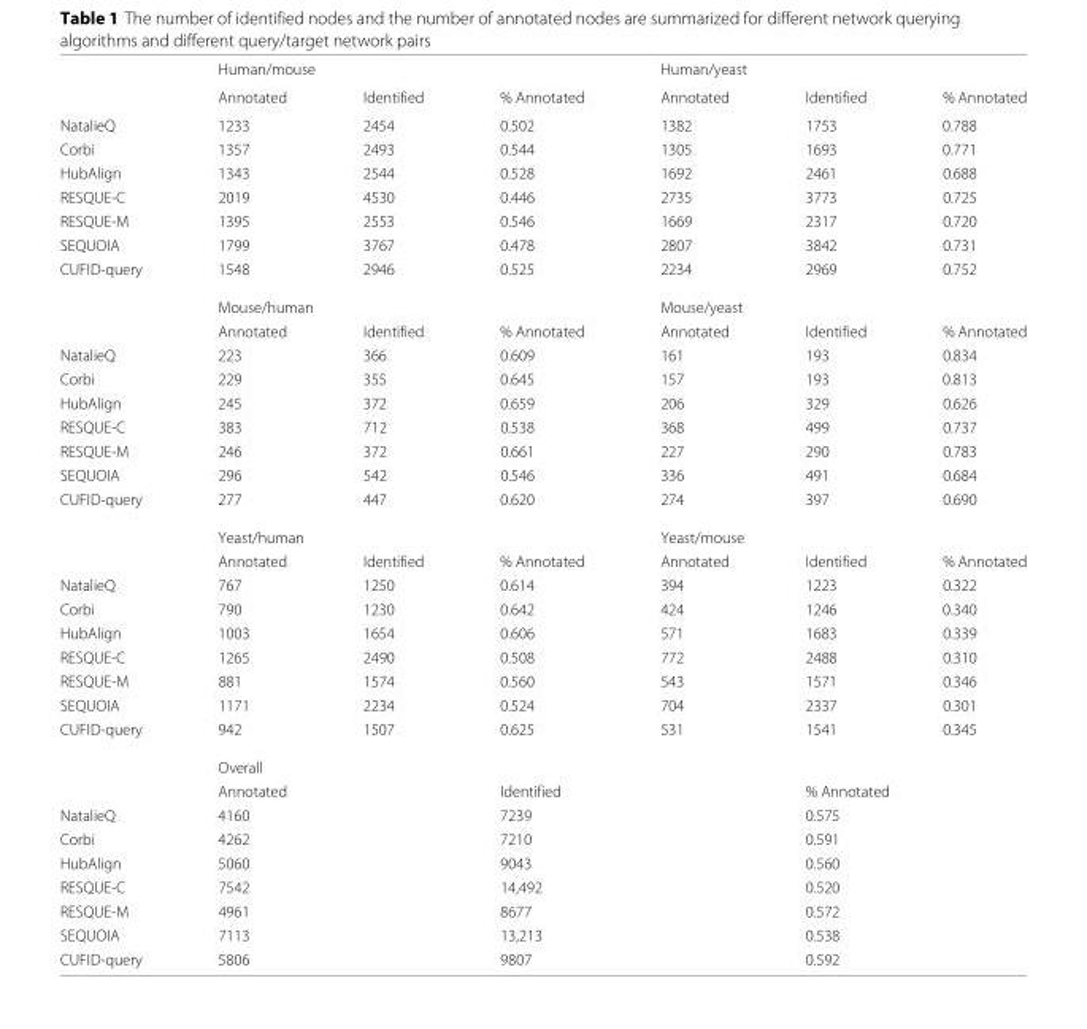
<table><thead><tr><td rowspan="2"></td><td colspan="3">Human/mouse</td><td colspan="3">Human/yeast</td></tr><tr><td>Annotated</td><td>Identified</td><td>% Annotated</td><td>Annotated</td><td>Identified</td><td>% Annotated</td></tr></thead><tbody><tr><td>NatalieQ</td><td>1233</td><td>2454</td><td>0.502</td><td>1382</td><td>1753</td><td>0.788</td></tr><tr><td>Corbi</td><td>1357</td><td>2493</td><td>0.544</td><td>1305</td><td>1693</td><td>0.771</td></tr><tr><td>HubAlign</td><td>1343</td><td>2544</td><td>0.528</td><td>1692</td><td>2461</td><td>0.688</td></tr><tr><td>RESQUE-C</td><td>2019</td><td>4530</td><td>0.446</td><td>2735</td><td>3773</td><td>0.725</td></tr><tr><td>RESQUE-M</td><td>1395</td><td>2553</td><td>0.546</td><td>1669</td><td>2317</td><td>0.720</td></tr><tr><td>SEQUOIA</td><td>1799</td><td>3767</td><td>0.478</td><td>2807</td><td>3842</td><td>0.731</td></tr><tr><td rowspan="3">CUFID-query</td><td>1548</td><td>2946</td><td>0.525</td><td>2234</td><td>2969</td><td>0.752</td></tr><tr><td colspan="3">Mouse/human</td><td colspan="3">Mouse/yeast</td></tr><tr><td>Annotated</td><td>Identified</td><td>% Annotated</td><td>Annotated</td><td>Identified</td><td>% Annotated</td></tr><tr><td>NatalieQ</td><td>223</td><td>366</td><td>0.609</td><td>161</td><td>193</td><td>0.834</td></tr><tr><td>Corbi</td><td>229</td><td>355</td><td>0.645</td><td>157</td><td>193</td><td>0.813</td></tr><tr><td>HubAlign</td><td>245</td><td>372</td><td>0.659</td><td>206</td><td>329</td><td>0.626</td></tr><tr><td>RESQUE-C</td><td>383</td><td>712</td><td>0.538</td><td>368</td><td>499</td><td>0.737</td></tr><tr><td>RESQUE-M</td><td>246</td><td>372</td><td>0.661</td><td>227</td><td>290</td><td>0.783</td></tr><tr><td>SEQUOIA</td><td>296</td><td>542</td><td>0.546</td><td>336</td><td>491</td><td>0.684</td></tr><tr><td rowspan="3">CUFID-query</td><td>277</td><td>447</td><td>0.620</td><td>274</td><td>397</td><td>0.690</td></tr><tr><td colspan="3">Yeast/human</td><td colspan="3">Yeast/mouse</td></tr><tr><td>Annotated</td><td>Identified</td><td>% Annotated</td><td>Annotated</td><td>Identified</td><td>% Annotated</td></tr><tr><td>NatalieQ</td><td>767</td><td>1250</td><td>0.614</td><td>394</td><td>1223</td><td>0.322</td></tr><tr><td>Corbi</td><td>790</td><td>1230</td><td>0.642</td><td>424</td><td>1246</td><td>0.340</td></tr><tr><td>HubAlign</td><td>1003</td><td>1654</td><td>0.606</td><td>571</td><td>1683</td><td>0.339</td></tr><tr><td>RESQUE-C</td><td>1265</td><td>2490</td><td>0.508</td><td>772</td><td>2488</td><td>0.310</td></tr><tr><td>RESQUE-M</td><td>881</td><td>1574</td><td>0.560</td><td>543</td><td>1571</td><td>0.346</td></tr><tr><td>SEQUOIA</td><td>1171</td><td>2234</td><td>0.524</td><td>704</td><td>2337</td><td>0.301</td></tr><tr><td rowspan="3">CUFID-query</td><td>942</td><td>1507</td><td>0.625</td><td>531</td><td>1541</td><td>0.345</td></tr><tr><td colspan="6">Overall</td></tr><tr><td colspan="2">Annotated</td><td colspan="2">Identified</td><td colspan="2">% Annotated</td></tr><tr><td>NatalieQ</td><td colspan="2">4160</td><td colspan="2">7239</td><td colspan="2">0.575</td></tr><tr><td>Corbi</td><td colspan="2">4262</td><td colspan="2">7210</td><td colspan="2">0.591</td></tr><tr><td>HubAlign</td><td colspan="2">5060</td><td colspan="2">9043</td><td colspan="2">0.560</td></tr><tr><td>RESQUE-C</td><td colspan="2">7542</td><td colspan="2">14,492</td><td colspan="2">0.520</td></tr><tr><td>RESQUE-M</td><td colspan="2">4961</td><td colspan="2">8677</td><td colspan="2">0.572</td></tr><tr><td>SEQUOIA</td><td colspan="2">7113</td><td colspan="2">13,213</td><td colspan="2">0.538</td></tr><tr><td>CUFID-query</td><td colspan="2">5806</td><td colspan="2">9807</td><td colspan="2">0.592</td></tr></tbody></table>